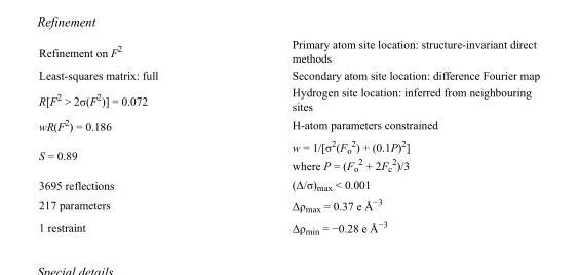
<table><tbody><tr><td>Refinement on F<sup>2</sup></td><td>Primary atom site location: structure-invariant direct methods</td></tr><tr><td>Least-squares matrix: full</td><td>Secondary atom site location: difference Fourier map</td></tr><tr><td>R[F<sup>2</sup> &gt; 2σ(F<sup>2</sup>)] = 0.072</td><td>Hydrogen site location: inferred from neighbouring sites</td></tr><tr><td>wR(F<sup>2</sup>) = 0.186</td><td>H-atom parameters constrained</td></tr><tr><td>S = 0.89</td><td>w = 1/[σ<sup>2</sup>(F<sub>o</sub> <sup>2</sup>) + (0.1P)<sup>2</sup>] where P = (F<sub>o</sub> <sup>2</sup> + 2F<sub>c</sub> <sup>2</sup>)/3</td></tr><tr><td>3695 reflections</td><td>(Δ/σ)<sub>max</sub> &lt; 0.001</td></tr><tr><td>217 parameters</td><td>Δρ<sub>max</sub> = 0.37 e Å<sup>−3</sup></td></tr><tr><td>1 restraint</td><td>Δρ<sub>min</sub> = −0.28 e Å<sup>−3</sup></td></tr></tbody></table>